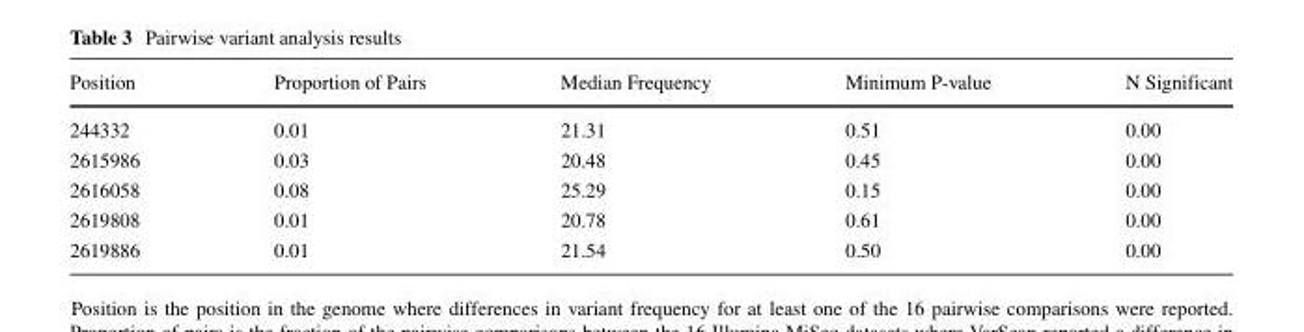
<table><thead><tr><td>Position</td><td>Proportion of Pairs</td><td>Median Frequency</td><td>Minimum P-value</td><td>N Significant</td></tr></thead><tbody><tr><td>244332</td><td>0.01</td><td>21.31</td><td>0.51</td><td>0.00</td></tr><tr><td>2615986</td><td>0.03</td><td>20.48</td><td>0.45</td><td>0.00</td></tr><tr><td>2616058</td><td>0.08</td><td>25.29</td><td>0.15</td><td>0.00</td></tr><tr><td>2619808</td><td>0.01</td><td>20.78</td><td>0.61</td><td>0.00</td></tr><tr><td>2619886</td><td>0.01</td><td>21.54</td><td>0.50</td><td>0.00</td></tr></tbody></table>